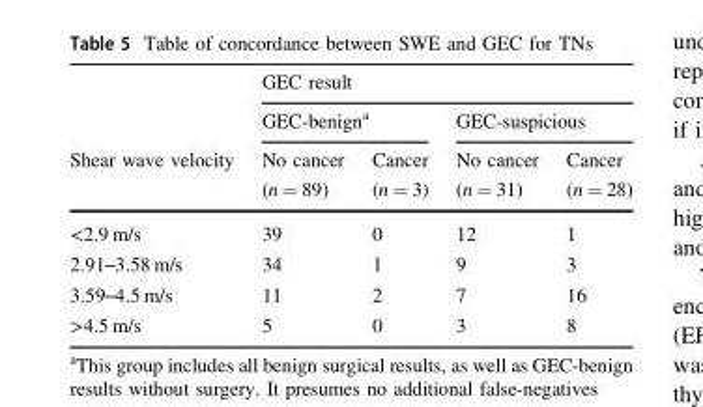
<table><thead><tr><td rowspan="4">Shear wave velocity</td><td colspan="4">GEC result</td></tr><tr><td colspan="2">GEC-benign<sup>a</sup></td><td colspan="2">GEC-suspicious</td></tr><tr><td rowspan="2">No cancer (n = 89)</td><td rowspan="2">Cancer (n = 3)</td><td rowspan="2">No cancer (n = 31)</td><td rowspan="2">Cancer (n = 28)</td></tr><tr></tr></thead><tbody><tr><td>&lt;2.9 m/s</td><td>39</td><td>0</td><td>12</td><td>1</td></tr><tr><td>2.91–3.58 m/s</td><td>34</td><td>1</td><td>9</td><td>3</td></tr><tr><td>3.59–4.5 m/s</td><td>11</td><td>2</td><td>7</td><td>16</td></tr><tr><td>&gt;4.5 m/s</td><td>5</td><td>0</td><td>3</td><td>8</td></tr></tbody></table>